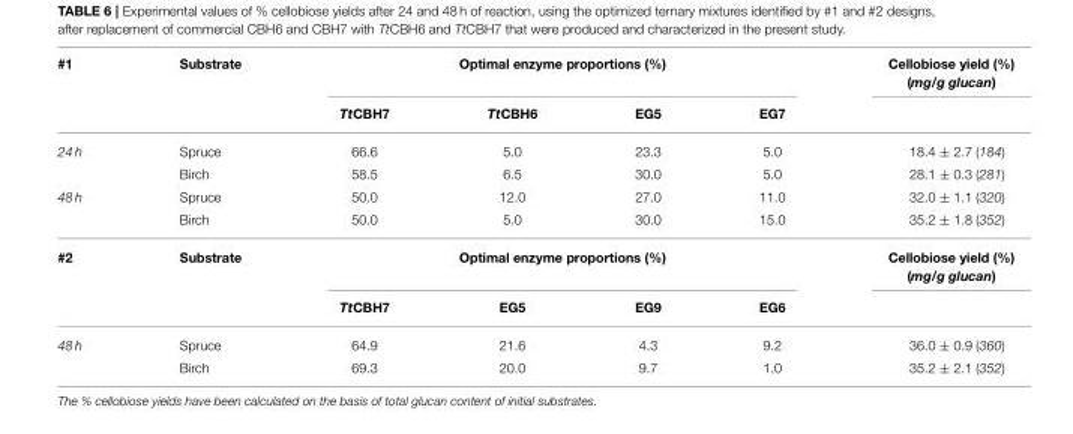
<table><thead><tr><td rowspan="2">#1</td><td rowspan="2">Substrate</td><td colspan="4">Optimal enzyme proportions (%)</td><td rowspan="2">Cellobiose yield (%) (mg/g glucan)</td></tr><tr><td>TtCBH7</td><td>TtCBH6</td><td>EG5</td><td>EG7</td></tr></thead><tbody><tr><td rowspan="2">24 h</td><td>Spruce</td><td>66.6</td><td>5.0</td><td>23.3</td><td>5.0</td><td>18.4 ± 2.7 (184)</td></tr><tr><td>Birch</td><td>58.5</td><td>6.5</td><td>30.0</td><td>5.0</td><td>28.1 ± 0.3 (281)</td></tr><tr><td rowspan="2">48 h</td><td>Spruce</td><td>50.0</td><td>12.0</td><td>27.0</td><td>11.0</td><td>32.0 ± 1.1 (320)</td></tr><tr><td>Birch</td><td>50.0</td><td>5.0</td><td>30.0</td><td>15.0</td><td>35.2 ± 1.8 (352)</td></tr><tr><td rowspan="2">#2</td><td>Substrate</td><td colspan="4">Optimal enzyme proportions (%)</td><td>Cellobiose yield (%) (mg/g glucan)</td></tr><tr><td></td><td>TtCBH7</td><td>EG5</td><td>EG9</td><td>EG6</td><td></td></tr><tr><td rowspan="2">48 h</td><td>Spruce</td><td>64.9</td><td>21.6</td><td>4.3</td><td>9.2</td><td>36.0 ± 0.9 (360)</td></tr><tr><td>Birch</td><td>69.3</td><td>20.0</td><td>9.7</td><td>1.0</td><td>35.2 ± 2.1 (352)</td></tr></tbody></table>